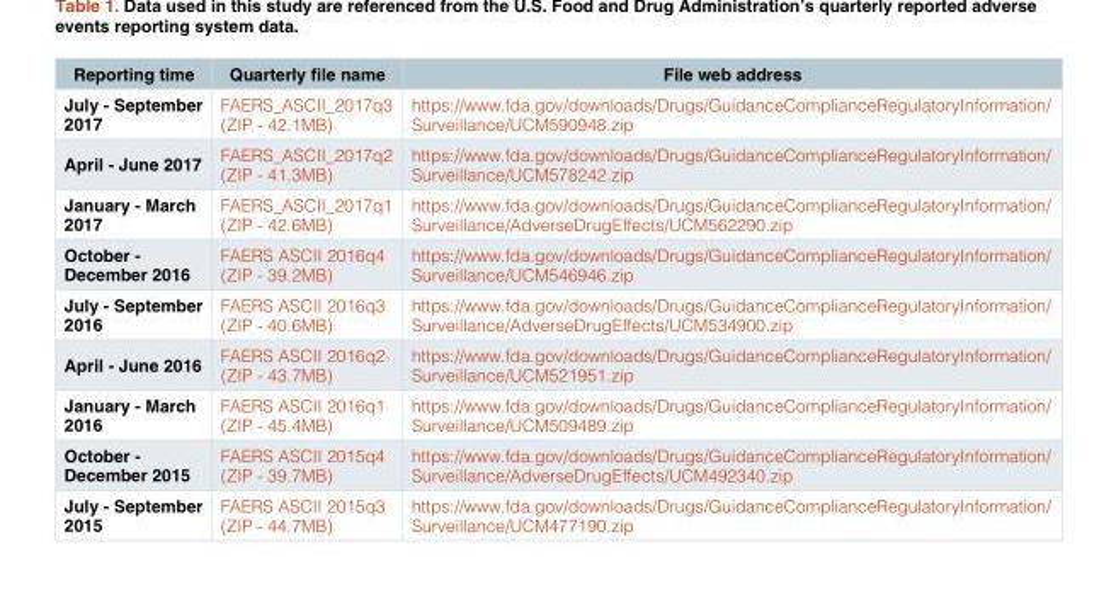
<table><thead><tr><td>Reporting time</td><td>Quarterly file name</td><td>File web address</td></tr></thead><tbody><tr><td>July - September 2017</td><td>FAERS_ASCII_2017q3 (ZIP - 42.1MB)</td><td>https://www.fda.gov/downloads/Drugs/GuidanceComplianceRegulatoryInformation/ Surveillance/UCM590948.zip</td></tr><tr><td>April - June 2017</td><td>FAERS_ASCII_2017q2 (ZIP - 41.3MB)</td><td>https://www.fda.gov/downloads/Drugs/GuidanceComplianceRegulatoryInformation/ Surveillance/UCM578242.zip</td></tr><tr><td>January - March 2017</td><td>FAERS_ASCII_2017q1 (ZIP - 42.6MB)</td><td>https://www.fda.gov/downloads/Drugs/GuidanceComplianceRegulatoryInformation/ Surveillance/AdverseDrugEffects/UCM562290.zip</td></tr><tr><td>October - December 2016</td><td>FAERS ASCII 2016q4 (ZIP - 39.2MB)</td><td>https://www.fda.gov/downloads/Drugs/GuidanceComplianceRegulatoryInformation/ Surveillance/UCM546946.zip</td></tr><tr><td>July - September 2016</td><td>FAERS ASCII 2016q3 (ZIP - 40.6MB)</td><td>https://www.fda.gov/downloads/Drugs/GuidanceComplianceRegulatoryInformation/ Surveillance/AdverseDrugEffects/UCM534900.zip</td></tr><tr><td>April - June 2016</td><td>FAERS ASCII 2016q2 (ZIP - 43.7MB)</td><td>https://www.fda.gov/downloads/Drugs/GuidanceComplianceRegulatoryInformation/ Surveillance/UCM521951.zip</td></tr><tr><td>January - March 2016</td><td>FAERS ASCII 2016q1 (ZIP - 45.4MB)</td><td>https://www.fda.gov/downloads/Drugs/GuidanceComplianceRegulatoryInformation/ Surveillance/UCM509489.zip</td></tr><tr><td>October - December 2015</td><td>FAERS ASCII 2015q4 (ZIP - 39.7MB)</td><td>https://www.fda.gov/downloads/Drugs/GuidanceComplianceRegulatoryInformation/ Surveillance/AdverseDrugEffects/UCM492340.zip</td></tr><tr><td>July - September 2015</td><td>FAERS ASCII 2015q3 (ZIP - 44.7MB)</td><td>https://www.fda.gov/downloads/Drugs/GuidanceComplianceRegulatoryInformation/ Surveillance/UCM477190.zip</td></tr></tbody></table>